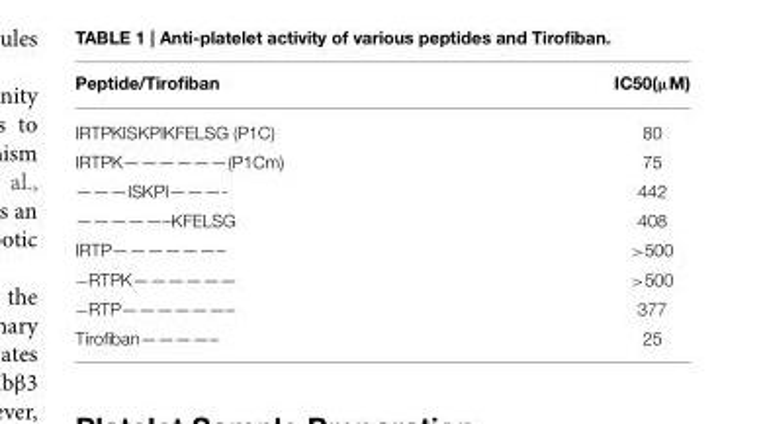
<table><thead><tr><td>Peptide/Tirofiban</td><td>IC50(µM)</td></tr></thead><tbody><tr><td>IRTPKISKPIKFELSG (P1C)</td><td>80</td></tr><tr><td>IRTPK——————(P1Cm)</td><td>75</td></tr><tr><td>———ISKPI———-</td><td>442</td></tr><tr><td>—————–KFELSG</td><td>408</td></tr><tr><td>IRTP——————–</td><td>&gt;500</td></tr><tr><td>−RTPK——————</td><td>&gt;500</td></tr><tr><td>−RTP——————–</td><td>377</td></tr><tr><td>Tirofiban————–</td><td>25</td></tr></tbody></table>